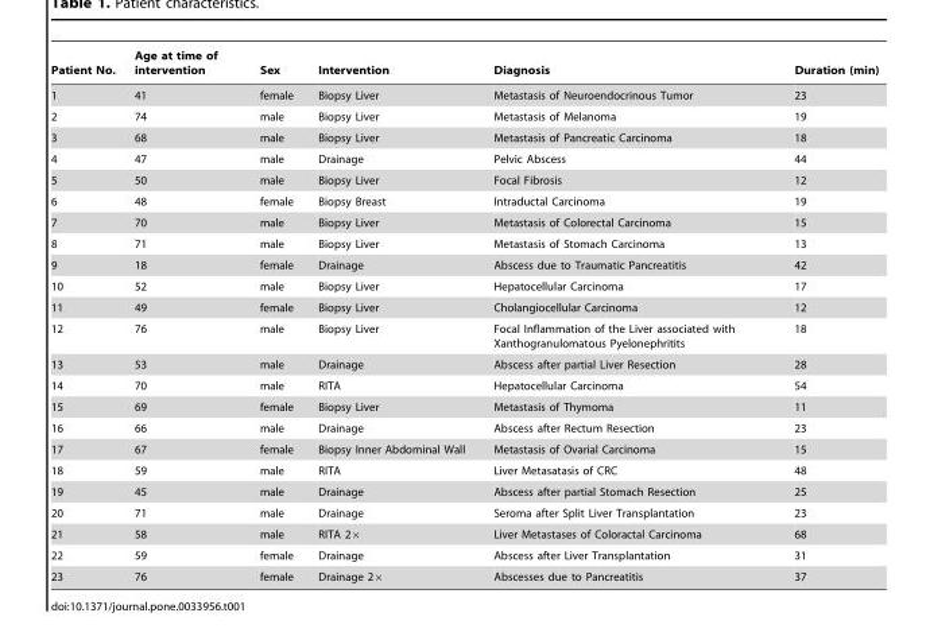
<table><thead><tr><td>Patient No.</td><td>Age at time of intervention</td><td>Sex</td><td>Intervention</td><td>Diagnosis</td><td>Duration (min)</td></tr></thead><tbody><tr><td>1</td><td>41</td><td>female</td><td>Biopsy Liver</td><td>Metastasis of Neuroendocrinous Tumor</td><td>23</td></tr><tr><td>2</td><td>74</td><td>male</td><td>Biopsy Liver</td><td>Metastasis of Melanoma</td><td>19</td></tr><tr><td>3</td><td>68</td><td>male</td><td>Biopsy Liver</td><td>Metastasis of Pancreatic Carcinoma</td><td>18</td></tr><tr><td>4</td><td>47</td><td>male</td><td>Drainage</td><td>Pelvic Abscess</td><td>44</td></tr><tr><td>5</td><td>50</td><td>male</td><td>Biopsy Liver</td><td>Focal Fibrosis</td><td>12</td></tr><tr><td>6</td><td>48</td><td>female</td><td>Biopsy Breast</td><td>Intraductal Carcinoma</td><td>19</td></tr><tr><td>7</td><td>70</td><td>male</td><td>Biopsy Liver</td><td>Metastasis of Colorectal Carcinoma</td><td>15</td></tr><tr><td>8</td><td>71</td><td>male</td><td>Biopsy Liver</td><td>Metastasis of Stomach Carcinoma</td><td>13</td></tr><tr><td>9</td><td>18</td><td>female</td><td>Drainage</td><td>Abscess due to Traumatic Pancreatitis</td><td>42</td></tr><tr><td>10</td><td>52</td><td>male</td><td>Biopsy Liver</td><td>Hepatocellular Carcinoma</td><td>17</td></tr><tr><td>11</td><td>49</td><td>female</td><td>Biopsy Liver</td><td>Cholangiocellular Carcinoma</td><td>12</td></tr><tr><td>12</td><td>76</td><td>male</td><td>Biopsy Liver</td><td>Focal Inflammation of the Liver associated with Xanthogranulomatous Pyelonephritits</td><td>18</td></tr><tr><td>13</td><td>53</td><td>male</td><td>Drainage</td><td>Abscess after partial Liver Resection</td><td>28</td></tr><tr><td>14</td><td>70</td><td>male</td><td>RITA</td><td>Hepatocellular Carcinoma</td><td>54</td></tr><tr><td>15</td><td>69</td><td>female</td><td>Biopsy Liver</td><td>Metastasis of Thymoma</td><td>11</td></tr><tr><td>16</td><td>66</td><td>male</td><td>Drainage</td><td>Abscess after Rectum Resection</td><td>23</td></tr><tr><td>17</td><td>67</td><td>female</td><td>Biopsy Inner Abdominal Wall</td><td>Metastasis of Ovarial Carcinoma</td><td>15</td></tr><tr><td>18</td><td>59</td><td>male</td><td>RITA</td><td>Liver Metasatasis of CRC</td><td>48</td></tr><tr><td>19</td><td>45</td><td>male</td><td>Drainage</td><td>Abscess after partial Stomach Resection</td><td>25</td></tr><tr><td>20</td><td>71</td><td>male</td><td>Drainage</td><td>Seroma after Split Liver Transplantation</td><td>23</td></tr><tr><td>21</td><td>58</td><td>male</td><td>RITA 2×</td><td>Liver Metastases of Coloractal Carcinoma</td><td>68</td></tr><tr><td>22</td><td>59</td><td>female</td><td>Drainage</td><td>Abscess after Liver Transplantation</td><td>31</td></tr><tr><td>23</td><td>76</td><td>female</td><td>Drainage 2×</td><td>Abscesses due to Pancreatitis</td><td>37</td></tr></tbody></table>